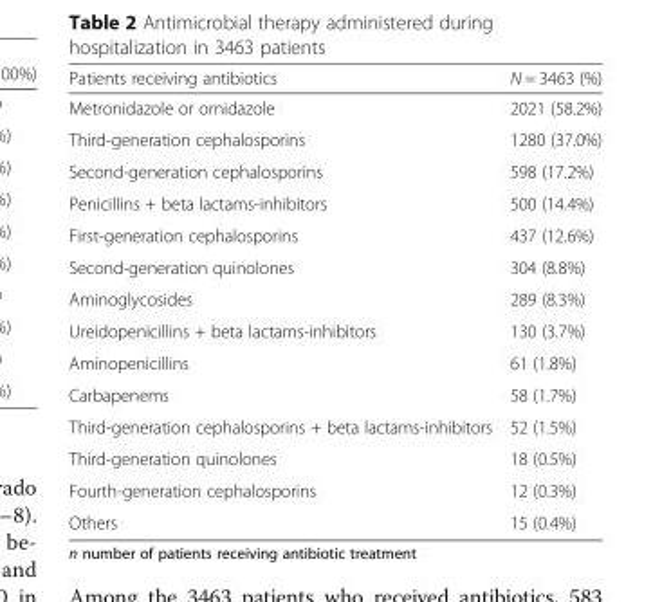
<table><thead><tr><td>Patients receiving antibiotics</td><td>N = 3463 (%)</td></tr></thead><tbody><tr><td>Metronidazole or ornidazole</td><td>2021 (58.2%)</td></tr><tr><td>Third-generation cephalosporins</td><td>1280 (37.0%)</td></tr><tr><td>Second-generation cephalosporins</td><td>598 (17.2%)</td></tr><tr><td>Penicillins + beta lactams-inhibitors</td><td>500 (14.4%)</td></tr><tr><td>First-generation cephalosporins</td><td>437 (12.6%)</td></tr><tr><td>Second-generation quinolones</td><td>304 (8.8%)</td></tr><tr><td>Aminoglycosides</td><td>289 (8.3%)</td></tr><tr><td>Ureidopenicillins + beta lactams-inhibitors</td><td>130 (3.7%)</td></tr><tr><td>Aminopenicillins</td><td>61 (1.8%)</td></tr><tr><td>Carbapenems</td><td>58 (1.7%)</td></tr><tr><td>Third-generation cephalosporins + beta lactams-inhibitors</td><td>52 (1.5%)</td></tr><tr><td>Third-generation quinolones</td><td>18 (0.5%)</td></tr><tr><td>Fourth-generation cephalosporins</td><td>12 (0.3%)</td></tr><tr><td>Others</td><td>15 (0.4%)</td></tr></tbody></table>